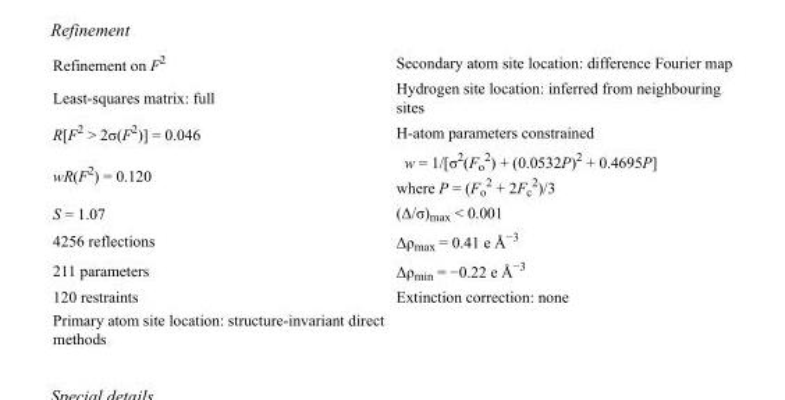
<table><tbody><tr><td>Refinement on F<sup>2</sup></td><td>Secondary atom site location: difference Fourier map</td></tr><tr><td>Least-squares matrix: full</td><td>Hydrogen site location: inferred from neighbouring sites</td></tr><tr><td>R[F<sup>2</sup> &gt; 2σ(F<sup>2</sup>)] = 0.046</td><td>H-atom parameters constrained</td></tr><tr><td>wR(F<sup>2</sup>) = 0.120</td><td>w = 1/[σ<sup>2</sup>(F<sub>o</sub> <sup>2</sup>) + (0.0532P)<sup>2</sup> + 0.4695P] where P = (F<sub>o</sub> <sup>2</sup> + 2F<sub>c</sub> <sup>2</sup>)/3</td></tr><tr><td>S = 1.07</td><td>(Δ/σ)<sub>max</sub> &lt; 0.001</td></tr><tr><td>4256 reflections</td><td>Δρ<sub>max</sub> = 0.41 e Å<sup>−3</sup></td></tr><tr><td>211 parameters</td><td>Δρ<sub>min</sub> = −0.22 e Å<sup>−3</sup></td></tr><tr><td>120 restraints</td><td>Extinction correction: none</td></tr><tr><td>Primary atom site location: structure-invariant direct methods</td><td></td></tr></tbody></table>